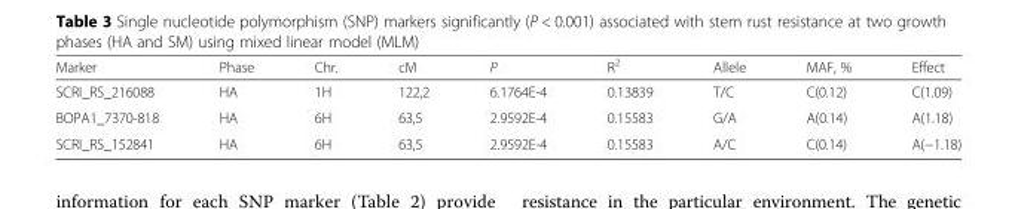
<table><thead><tr><td>Marker</td><td>Phase</td><td>Chr.</td><td>cM</td><td>P</td><td>R<sup>2</sup></td><td>Allele</td><td>MAF, %</td><td>Effect</td></tr></thead><tbody><tr><td>SCRI_RS_216088</td><td>HA</td><td>1H</td><td>122,2</td><td>6.1764E-4</td><td>0.13839</td><td>T/C</td><td>C(0.12)</td><td>C(1.09)</td></tr><tr><td>BOPA1_7370-818</td><td>HA</td><td>6H</td><td>63,5</td><td>2.9592E-4</td><td>0.15583</td><td>G/A</td><td>A(0.14)</td><td>A(1.18)</td></tr><tr><td>SCRI_RS_152841</td><td>HA</td><td>6H</td><td>63,5</td><td>2.9592E-4</td><td>0.15583</td><td>A/C</td><td>C(0.14)</td><td>A(−1.18)</td></tr></tbody></table>